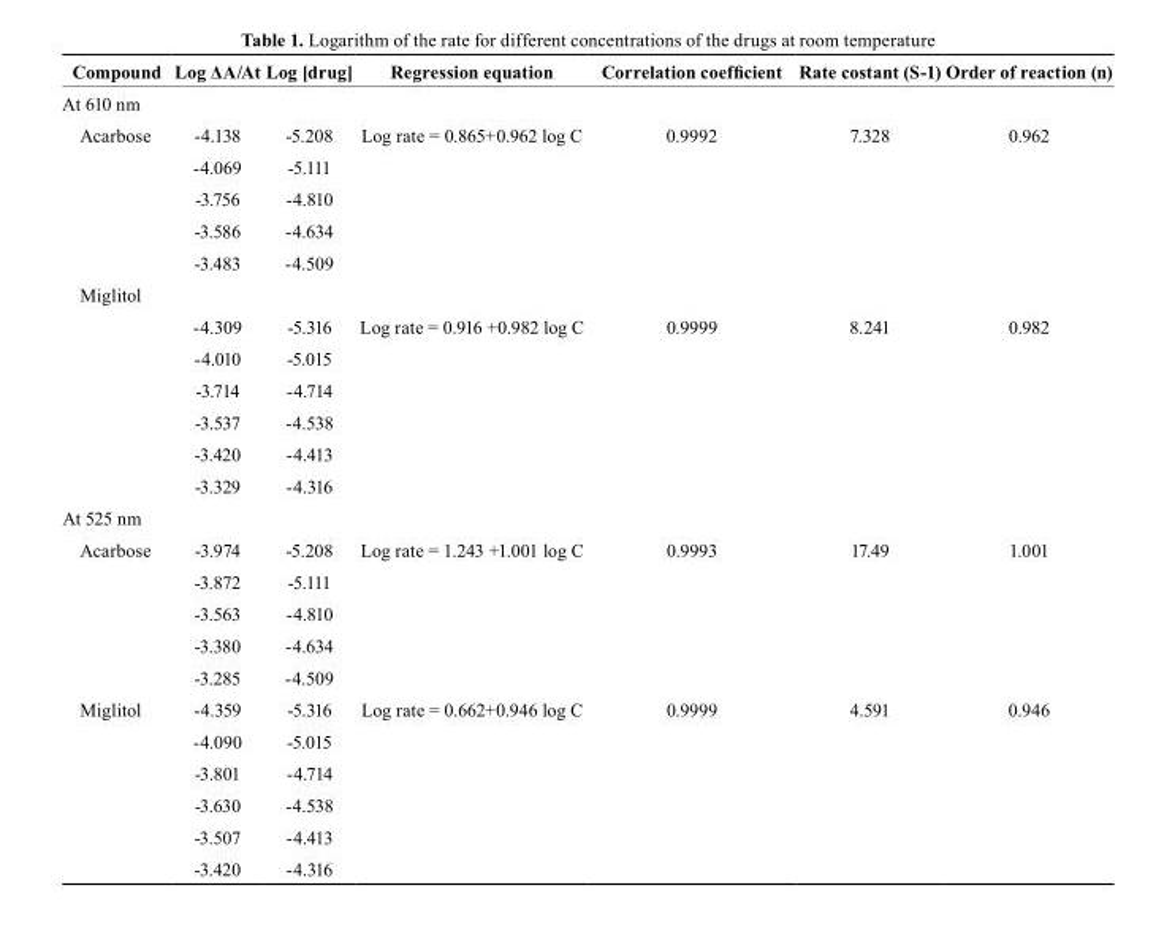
<table><thead><tr><td>compound</td><td>Log ΔA/At</td><td>Log [drug]</td><td>regression equation</td><td>Correlation coefficient</td><td>Rate costant (S-1)</td><td>Order of reaction (n)</td></tr></thead><tbody><tr><td colspan="7">At 610 nm</td></tr><tr><td rowspan="5">Acarbose</td><td>-4.138</td><td>-5.208</td><td>Log rate = 0.865+0.962 log C</td><td>0.9992</td><td>7.328</td><td>0.962</td></tr><tr><td>-4.069</td><td>-5.111</td><td></td><td></td><td></td><td></td></tr><tr><td>-3.756</td><td>-4.810</td><td></td><td></td><td></td><td></td></tr><tr><td>-3.586</td><td>-4.634</td><td></td><td></td><td></td><td></td></tr><tr><td>-3.483</td><td>-4.509</td><td></td><td></td><td></td><td></td></tr><tr><td colspan="7">Miglitol</td></tr><tr><td></td><td>-4.309</td><td>-5.316</td><td>Log rate = 0.916 +0.982 log C</td><td>0.9999</td><td>8.241</td><td>0.982</td></tr><tr><td></td><td>-4.010</td><td>-5.015</td><td></td><td></td><td></td><td></td></tr><tr><td></td><td>-3.714</td><td>-4.714</td><td></td><td></td><td></td><td></td></tr><tr><td></td><td>-3.537</td><td>-4.538</td><td></td><td></td><td></td><td></td></tr><tr><td></td><td>-3.420</td><td>-4.413</td><td></td><td></td><td></td><td></td></tr><tr><td></td><td>-3.329</td><td>-4.316</td><td></td><td></td><td></td><td></td></tr><tr><td colspan="7">At 525 nm</td></tr><tr><td rowspan="5">Acarbose</td><td>-3.974</td><td>-5.208</td><td>Log rate = 1.243 +1.001 log C</td><td>0.9993</td><td>17.49</td><td>1.001</td></tr><tr><td>-3.872</td><td>-5.111</td><td></td><td></td><td></td><td></td></tr><tr><td>-3.563</td><td>-4.810</td><td></td><td></td><td></td><td></td></tr><tr><td>-3.380</td><td>-4.634</td><td></td><td></td><td></td><td></td></tr><tr><td>-3.285</td><td>-4.509</td><td></td><td></td><td></td><td></td></tr><tr><td rowspan="6">Miglitol</td><td>-4.359</td><td>-5.316</td><td>Log rate = 0.662+0.946 log C</td><td>0.9999</td><td>4.591</td><td>0.946</td></tr><tr><td>-4.090</td><td>-5.015</td><td></td><td></td><td></td><td></td></tr><tr><td>-3.801</td><td>-4.714</td><td></td><td></td><td></td><td></td></tr><tr><td>-3.630</td><td>-4.538</td><td></td><td></td><td></td><td></td></tr><tr><td>-3.507</td><td>-4.413</td><td></td><td></td><td></td><td></td></tr><tr><td>-3.420</td><td>-4.316</td><td></td><td></td><td></td><td></td></tr></tbody></table>